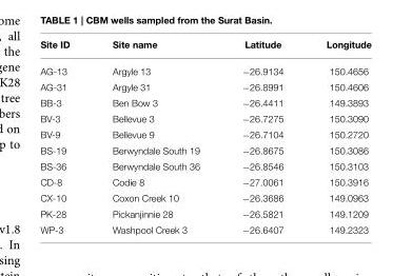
<table><thead><tr><td>Site ID</td><td>Site name</td><td>Latitude</td><td>Longitude</td></tr></thead><tbody><tr><td>AG-13</td><td>Argyle 13</td><td>−26.9134</td><td>150.4656</td></tr><tr><td>AG-31</td><td>Argyle 31</td><td>−26.8991</td><td>150.4606</td></tr><tr><td>BB-3</td><td>Ben Bow 3</td><td>−26.4411</td><td>149.3893</td></tr><tr><td>BV-3</td><td>Bellevue 3</td><td>−26.7275</td><td>150.3090</td></tr><tr><td>BV-9</td><td>Bellevue 9</td><td>−26.7104</td><td>150.2720</td></tr><tr><td>BS-19</td><td>Berwyndale South 19</td><td>−26.8675</td><td>150.3086</td></tr><tr><td>BS-36</td><td>Berwyndale South 36</td><td>−26.8546</td><td>150.3103</td></tr><tr><td>CD-8</td><td>Codie 8</td><td>−27.0061</td><td>150.3916</td></tr><tr><td>CX-10</td><td>Coxon Creek 10</td><td>−26.3686</td><td>149.0963</td></tr><tr><td>PK-28</td><td>Pickanjinnie 28</td><td>−26.5821</td><td>149.1209</td></tr><tr><td>WP-3</td><td>Washpool Creek 3</td><td>−26.6407</td><td>149.2323</td></tr></tbody></table>